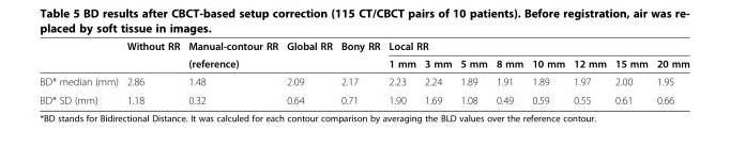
<table><thead><tr><td rowspan="2"></td><td rowspan="2">Without RR</td><td rowspan="2">Manual-contour RR (reference)</td><td rowspan="2">Global RR</td><td rowspan="2">Bony RR</td><td colspan="8">Local RR</td></tr><tr><td>1 mm</td><td>3 mm</td><td>5 mm</td><td>8 mm</td><td>10 mm</td><td>12 mm</td><td>15 mm</td><td>20 mm</td></tr></thead><tbody><tr><td>BD* median (mm)</td><td>2.86</td><td>1.48</td><td>2.09</td><td>2.17</td><td>2.23</td><td>2.24</td><td>1.89</td><td>1.91</td><td>1.89</td><td>1.97</td><td>2.00</td><td>1.95</td></tr><tr><td>BD* SD (mm)</td><td>1.18</td><td>0.32</td><td>0.64</td><td>0.71</td><td>1.90</td><td>1.69</td><td>1.08</td><td>0.49</td><td>0.59</td><td>0.55</td><td>0.61</td><td>0.66</td></tr></tbody></table>